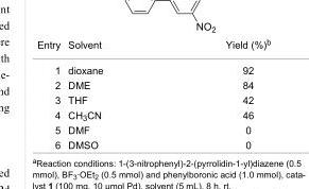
<table><tbody><tr><td>Entry</td><td>Solvent</td><td>Yield (%)b</td></tr><tr><td>1</td><td>dioxane</td><td>92</td></tr><tr><td>2</td><td>DME</td><td>84</td></tr><tr><td>3</td><td>THF</td><td>42</td></tr><tr><td>4</td><td>CH<sub>3</sub>CN</td><td>46</td></tr><tr><td>5</td><td>DMF</td><td>0</td></tr><tr><td>6</td><td>DMSO</td><td>0</td></tr></tbody></table>